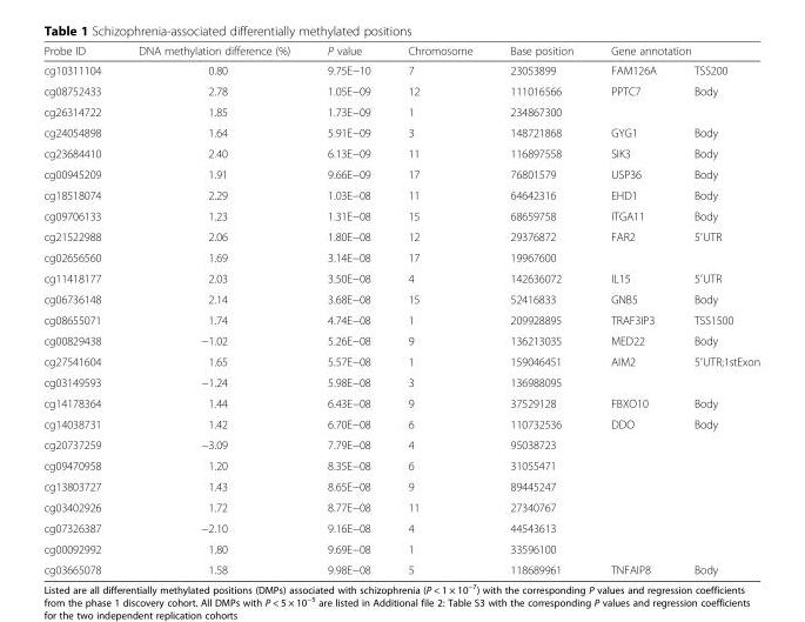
<table><thead><tr><td rowspan="2">Probe ID cg10311104</td><td rowspan="2">DNA methylation difference (%) 0.80</td><td rowspan="2">P value 9.75E−10</td><td rowspan="2">Chromosome 7</td><td rowspan="2">Base position 23053899</td><td colspan="2">Gene annotation</td></tr><tr><td>FAM126A</td><td>TSS200</td></tr></thead><tbody><tr><td>cg08752433</td><td>2.78</td><td>1.05E−09</td><td>12</td><td>111016566</td><td>PPTC7</td><td>Body</td></tr><tr><td>cg26314722</td><td>1.85</td><td>1.73E−09</td><td>1</td><td>234867300</td><td></td><td></td></tr><tr><td>cg24054898</td><td>1.64</td><td>5.91E−09</td><td>3</td><td>148721868</td><td>GYG1</td><td>Body</td></tr><tr><td>cg23684410</td><td>2.40</td><td>6.13E−09</td><td>11</td><td>116897558</td><td>SIK3</td><td>Body</td></tr><tr><td>cg00945209</td><td>1.91</td><td>9.66E−09</td><td>17</td><td>76801579</td><td>USP36</td><td>Body</td></tr><tr><td>cg18518074</td><td>2.29</td><td>1.03E−08</td><td>11</td><td>64642316</td><td>EHD1</td><td>Body</td></tr><tr><td>cg09706133</td><td>1.23</td><td>1.31E−08</td><td>15</td><td>68659758</td><td>ITGA11</td><td>Body</td></tr><tr><td>cg21522988</td><td>2.06</td><td>1.80E−08</td><td>12</td><td>29376872</td><td>FAR2</td><td>5′UTR</td></tr><tr><td>cg02656560</td><td>1.69</td><td>3.14E−08</td><td>17</td><td>19967600</td><td></td><td></td></tr><tr><td>cg11418177</td><td>2.03</td><td>3.50E−08</td><td>4</td><td>142636072</td><td>IL15</td><td>5′UTR</td></tr><tr><td>cg06736148</td><td>2.14</td><td>3.68E−08</td><td>15</td><td>52416833</td><td>GNB5</td><td>Body</td></tr><tr><td>cg08655071</td><td>1.74</td><td>4.74E−08</td><td>1</td><td>209928895</td><td>TRAF3IP3</td><td>TSS1500</td></tr><tr><td>cg00829438</td><td>−1.02</td><td>5.26E−08</td><td>9</td><td>136213035</td><td>MED22</td><td>Body</td></tr><tr><td>cg27541604</td><td>1.65</td><td>5.57E−08</td><td>1</td><td>159046451</td><td>AIM2</td><td>5′UTR;1stExon</td></tr><tr><td>cg03149593</td><td>−1.24</td><td>5.98E−08</td><td>3</td><td>136988095</td><td></td><td></td></tr><tr><td>cg14178364</td><td>1.44</td><td>6.43E−08</td><td>9</td><td>37529128</td><td>FBXO10</td><td>Body</td></tr><tr><td>cg14038731</td><td>1.42</td><td>6.70E−08</td><td>6</td><td>110732536</td><td>DDO</td><td>Body</td></tr><tr><td>cg20737259</td><td>−3.09</td><td>7.79E−08</td><td>4</td><td>95038723</td><td></td><td></td></tr><tr><td>cg09470958</td><td>1.20</td><td>8.35E−08</td><td>6</td><td>31055471</td><td></td><td></td></tr><tr><td>cg13803727</td><td>1.43</td><td>8.65E−08</td><td>9</td><td>89445247</td><td></td><td></td></tr><tr><td>cg03402926</td><td>1.72</td><td>8.77E−08</td><td>11</td><td>27340767</td><td></td><td></td></tr><tr><td>cg07326387</td><td>−2.10</td><td>9.16E−08</td><td>4</td><td>44543613</td><td></td><td></td></tr><tr><td>cg00092992</td><td>1.80</td><td>9.69E−08</td><td>1</td><td>33596100</td><td></td><td></td></tr><tr><td>cg03665078</td><td>1.58</td><td>9.98E−08</td><td>5</td><td>118689961</td><td>TNFAIP8</td><td>Body</td></tr></tbody></table>